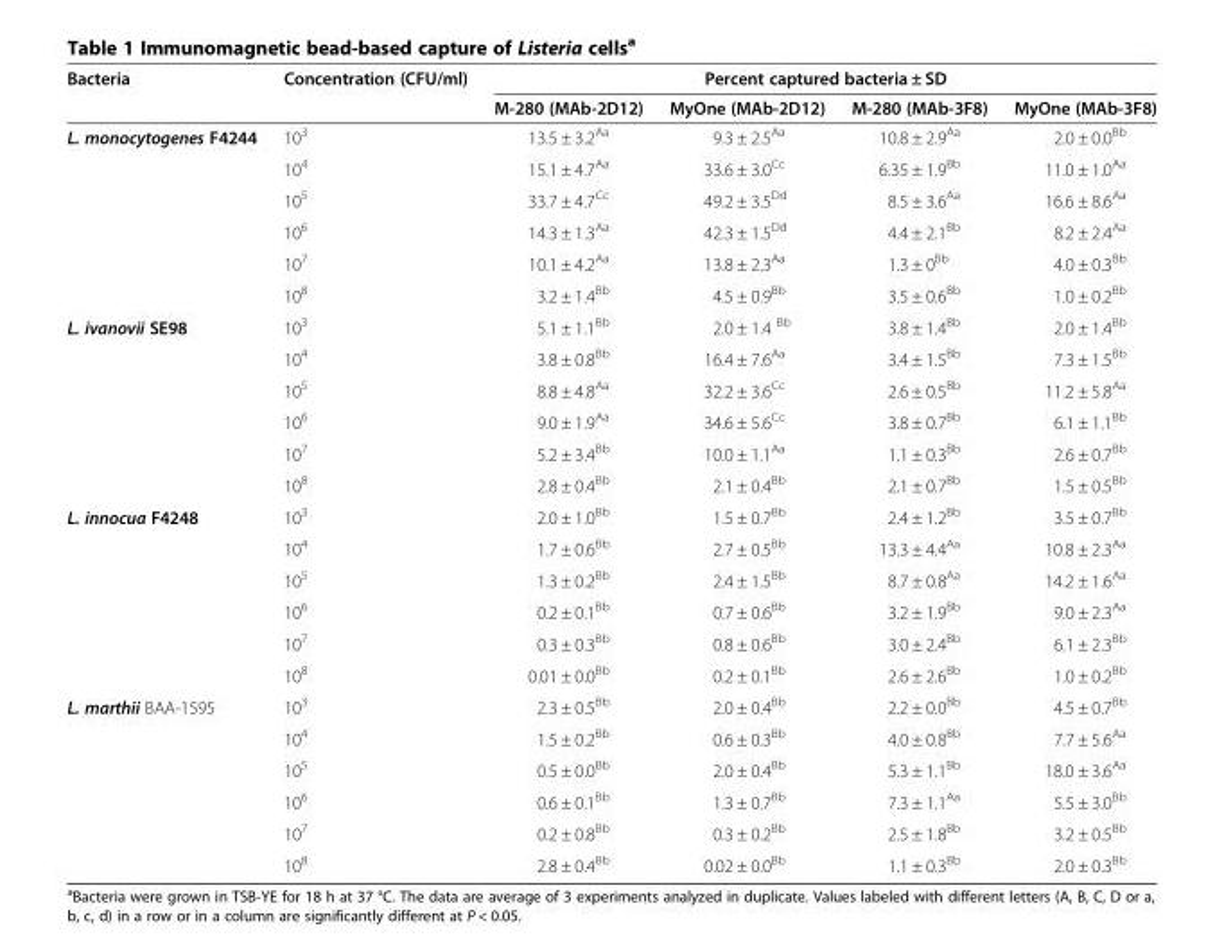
<table><thead><tr><td rowspan="2">Bacteria</td><td rowspan="2">Concentration (CFU/ml)</td><td colspan="4">Percent captured bacteria ± SD</td></tr><tr><td>M-280 (MAb-2D12)</td><td>MyOne (MAb-2D12)</td><td>M-280 (MAb-3F8)</td><td>MyOne (MAb-3F8)</td></tr></thead><tbody><tr><td rowspan="6">L. monocytogenes F4244</td><td>10<sup>3</sup></td><td>13.5 ± 3.2<sup>Aa</sup></td><td>9.3 ± 2.5<sup>Aa</sup></td><td>10.8 ± 2.9<sup>Aa</sup></td><td>2.0 ± 0.0<sup>Bb</sup></td></tr><tr><td>10<sup>4</sup></td><td>15.1 ± 4.7<sup>Aa</sup></td><td>33.6 ± 3.0<sup>Cc</sup></td><td>6.35 ± 1.9<sup>Bb</sup></td><td>11.0 ± 1.0<sup>Aa</sup></td></tr><tr><td>10<sup>5</sup></td><td>33.7 ± 4.7<sup>Cc</sup></td><td>49.2 ± 3.5<sup>Dd</sup></td><td>8.5 ± 3.6<sup>Aa</sup></td><td>16.6 ± 8.6<sup>Aa</sup></td></tr><tr><td>10<sup>6</sup></td><td>14.3 ± 1.3<sup>Aa</sup></td><td>42.3 ± 1.5<sup>Dd</sup></td><td>4.4 ± 2.1<sup>Bb</sup></td><td>8.2 ± 2.4<sup>Aa</sup></td></tr><tr><td>10<sup>7</sup></td><td>10.1 ± 4.2<sup>Aa</sup></td><td>13.8 ± 2.3<sup>Aa</sup></td><td>1.3 ± 0<sup>Bb</sup></td><td>4.0 ± 0.3<sup>Bb</sup></td></tr><tr><td>10<sup>8</sup></td><td>3.2 ± 1.4<sup>Bb</sup></td><td>4.5 ± 0.9<sup>Bb</sup></td><td>3.5 ± 0.6<sup>Bb</sup></td><td>1.0 ± 0.2<sup>Bb</sup></td></tr><tr><td rowspan="6">L. ivanovii SE98</td><td>10<sup>3</sup></td><td>5.1 ± 1.1<sup>Bb</sup></td><td>2.0 ± 1.4 <sup>Bb</sup></td><td>3.8 ± 1.4<sup>Bb</sup></td><td>2.0 ± 1.4<sup>Bb</sup></td></tr><tr><td>10<sup>4</sup></td><td>3.8 ± 0.8<sup>Bb</sup></td><td>16.4 ± 7.6<sup>Aa</sup></td><td>3.4 ± 1.5<sup>Bb</sup></td><td>7.3 ± 1.5<sup>Bb</sup></td></tr><tr><td>10<sup>5</sup></td><td>8.8 ± 4.8<sup>Aa</sup></td><td>32.2 ± 3.6<sup>Cc</sup></td><td>2.6 ± 0.5<sup>Bb</sup></td><td>11.2 ± 5.8<sup>Aa</sup></td></tr><tr><td>10<sup>6</sup></td><td>9.0 ± 1.9<sup>Aa</sup></td><td>34.6 ± 5.6<sup>Cc</sup></td><td>3.8 ± 0.7<sup>Bb</sup></td><td>6.1 ± 1.1<sup>Bb</sup></td></tr><tr><td>10<sup>7</sup></td><td>5.2 ± 3.4<sup>Bb</sup></td><td>10.0 ± 1.1<sup>Aa</sup></td><td>1.1 ± 0.3<sup>Bb</sup></td><td>2.6 ± 0.7<sup>Bb</sup></td></tr><tr><td>10<sup>8</sup></td><td>2.8 ± 0.4<sup>Bb</sup></td><td>2.1 ± 0.4<sup>Bb</sup></td><td>2.1 ± 0.7<sup>Bb</sup></td><td>1.5 ± 0.5<sup>Bb</sup></td></tr><tr><td rowspan="6">L. innocua F4248</td><td>10<sup>3</sup></td><td>2.0 ± 1.0<sup>Bb</sup></td><td>1.5 ± 0.7<sup>Bb</sup></td><td>2.4 ± 1.2<sup>Bb</sup></td><td>3.5 ± 0.7<sup>Bb</sup></td></tr><tr><td>10<sup>4</sup></td><td>1.7 ± 0.6<sup>Bb</sup></td><td>2.7 ± 0.5<sup>Bb</sup></td><td>13.3 ± 4.4<sup>Aa</sup></td><td>10.8 ± 2.3<sup>Aa</sup></td></tr><tr><td>10<sup>5</sup></td><td>1.3 ± 0.2<sup>Bb</sup></td><td>2.4 ± 1.5<sup>Bb</sup></td><td>8.7 ± 0.8<sup>Aa</sup></td><td>14.2 ± 1.6<sup>Aa</sup></td></tr><tr><td>10<sup>6</sup></td><td>0.2 ± 0.1<sup>Bb</sup></td><td>0.7 ± 0.6<sup>Bb</sup></td><td>3.2 ± 1.9<sup>Bb</sup></td><td>9.0 ± 2.3<sup>Aa</sup></td></tr><tr><td>10<sup>7</sup></td><td>0.3 ± 0.3<sup>Bb</sup></td><td>0.8 ± 0.6<sup>Bb</sup></td><td>3.0 ± 2.4<sup>Bb</sup></td><td>6.1 ± 2.3<sup>Bb</sup></td></tr><tr><td>10<sup>8</sup></td><td>0.01 ± 0.0<sup>Bb</sup></td><td>0.2 ± 0.1<sup>Bb</sup></td><td>2.6 ± 2.6<sup>Bb</sup></td><td>1.0 ± 0.2<sup>Bb</sup></td></tr><tr><td rowspan="6">L. marthii BAA-1595</td><td>10<sup>3</sup></td><td>2.3 ± 0.5<sup>Bb</sup></td><td>2.0 ± 0.4<sup>Bb</sup></td><td>2.2 ± 0.0<sup>Bb</sup></td><td>4.5 ± 0.7<sup>Bb</sup></td></tr><tr><td>10<sup>4</sup></td><td>1.5 ± 0.2<sup>Bb</sup></td><td>0.6 ± 0.3<sup>Bb</sup></td><td>4.0 ± 0.8<sup>Bb</sup></td><td>7.7 ± 5.6<sup>Aa</sup></td></tr><tr><td>10<sup>5</sup></td><td>0.5 ± 0.0<sup>Bb</sup></td><td>2.0 ± 0.4<sup>Bb</sup></td><td>5.3 ± 1.1<sup>Bb</sup></td><td>18.0 ± 3.6<sup>Aa</sup></td></tr><tr><td>10<sup>6</sup></td><td>0.6 ± 0.1<sup>Bb</sup></td><td>1.3 ± 0.7<sup>Bb</sup></td><td>7.3 ± 1.1<sup>Aa</sup></td><td>5.5 ± 3.0<sup>Bb</sup></td></tr><tr><td>10<sup>7</sup></td><td>0.2 ± 0.8<sup>Bb</sup></td><td>0.3 ± 0.2<sup>Bb</sup></td><td>2.5 ± 1.8<sup>Bb</sup></td><td>3.2 ± 0.5<sup>Bb</sup></td></tr><tr><td>10<sup>8</sup></td><td>2.8 ± 0.4<sup>Bb</sup></td><td>0.02 ± 0.0<sup>Bb</sup></td><td>1.1 ± 0.3<sup>Bb</sup></td><td>2.0 ± 0.3<sup>Bb</sup></td></tr></tbody></table>